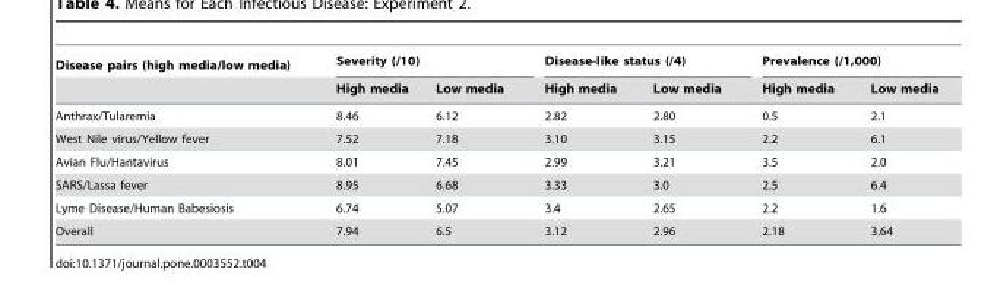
<table><thead><tr><td rowspan="2">Disease pairs (high media/low media)</td><td colspan="2">Severity (/10)</td><td colspan="2">Disease-like status (/4)</td><td colspan="2">Prevalence (/1,000)</td></tr><tr><td>High media</td><td>Low media</td><td>High media</td><td>Low media</td><td>High media</td><td>Low media</td></tr></thead><tbody><tr><td>Anthrax/Tularemia</td><td>8.46</td><td>6.12</td><td>2.82</td><td>2.80</td><td>0.5</td><td>2.1</td></tr><tr><td>West Nile virus/Yellow fever</td><td>7.52</td><td>7.18</td><td>3.10</td><td>3.15</td><td>2.2</td><td>6.1</td></tr><tr><td>Avian Flu/Hantavirus</td><td>8.01</td><td>7.45</td><td>2.99</td><td>3.21</td><td>3.5</td><td>2.0</td></tr><tr><td>SARS/Lassa fever</td><td>8.95</td><td>6.68</td><td>3.33</td><td>3.0</td><td>2.5</td><td>6.4</td></tr><tr><td>Lyme Disease/Human Babesiosis</td><td>6.74</td><td>5.07</td><td>3.4</td><td>2.65</td><td>2.2</td><td>1.6</td></tr><tr><td>Overall</td><td>7.94</td><td>6.5</td><td>3.12</td><td>2.96</td><td>2.18</td><td>3.64</td></tr></tbody></table>